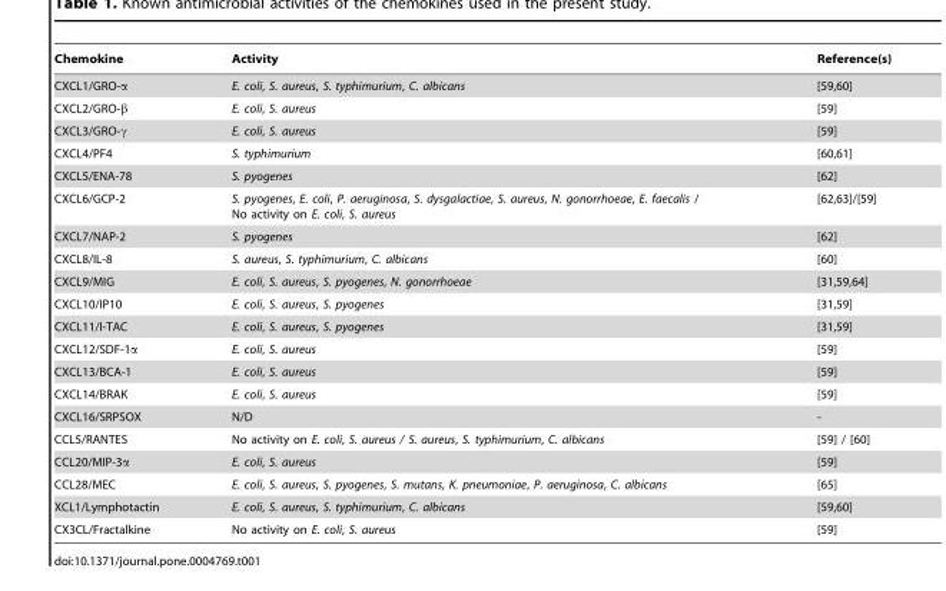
<table><thead><tr><td>Chemokine</td><td>Activity</td><td>Reference(s)</td></tr></thead><tbody><tr><td>CXCL1/GRO-α</td><td>E. coli, S. aureus, S. typhimurium, C. albicans</td><td>[59,60]</td></tr><tr><td>CXCL2/GRO-β</td><td>E. coli, S. aureus</td><td>[59]</td></tr><tr><td>CXCL3/GRO-γ</td><td>E. coli, S. aureus</td><td>[59]</td></tr><tr><td>CXCL4/PF4</td><td>S. typhimurium</td><td>[60,61]</td></tr><tr><td>CXCL5/ENA-78</td><td>S. pyogenes</td><td>[62]</td></tr><tr><td>CXCL6/GCP-2</td><td>S. pyogenes, E. coli, P. aeruginosa, S. dysgalactiae, S. aureus, N. gonorrhoeae, E. faecalis / No activity on E. coli, S. aureus</td><td>[62,63]/[59]</td></tr><tr><td>CXCL7/NAP-2</td><td>S. pyogenes</td><td>[62]</td></tr><tr><td>CXCL8/IL-8</td><td>S. aureus, S. typhimurium, C. albicans</td><td>[60]</td></tr><tr><td>CXCL9/MIG</td><td>E. coli, S. aureus, S. pyogenes, N. gonorrhoeae</td><td>[31,59,64]</td></tr><tr><td>CXCL10/IP10</td><td>E. coli, S. aureus, S. pyogenes</td><td>[31,59]</td></tr><tr><td>CXCL11/I-TAC</td><td>E. coli, S. aureus, S. pyogenes</td><td>[31,59]</td></tr><tr><td>CXCL12/SDF-1α</td><td>E. coli, S. aureus</td><td>[59]</td></tr><tr><td>CXCL13/BCA-1</td><td>E. coli, S. aureus</td><td>[59]</td></tr><tr><td>CXCL14/BRAK</td><td>E. coli, S. aureus</td><td>[59]</td></tr><tr><td>CXCL16/SRPSOX</td><td>N/D</td><td>-</td></tr><tr><td>CCL5/RANTES</td><td>No activity on E. coli, S. aureus / S. aureus, S. typhimurium, C. albicans</td><td>[59] / [60]</td></tr><tr><td>CCL20/MIP-3α</td><td>E. coli, S. aureus</td><td>[59]</td></tr><tr><td>CCL28/MEC</td><td>E. coli, S. aureus, S. pyogenes, S. mutans, K. pneumoniae, P. aeruginosa, C. albicans</td><td>[65]</td></tr><tr><td>XCL1/Lymphotactin</td><td>E. coli, S. aureus, S. typhimurium, C. albicans</td><td>[59,60]</td></tr><tr><td>CX3CL/Fractalkine</td><td>No activity on E. coli, S. aureus</td><td>[59]</td></tr></tbody></table>